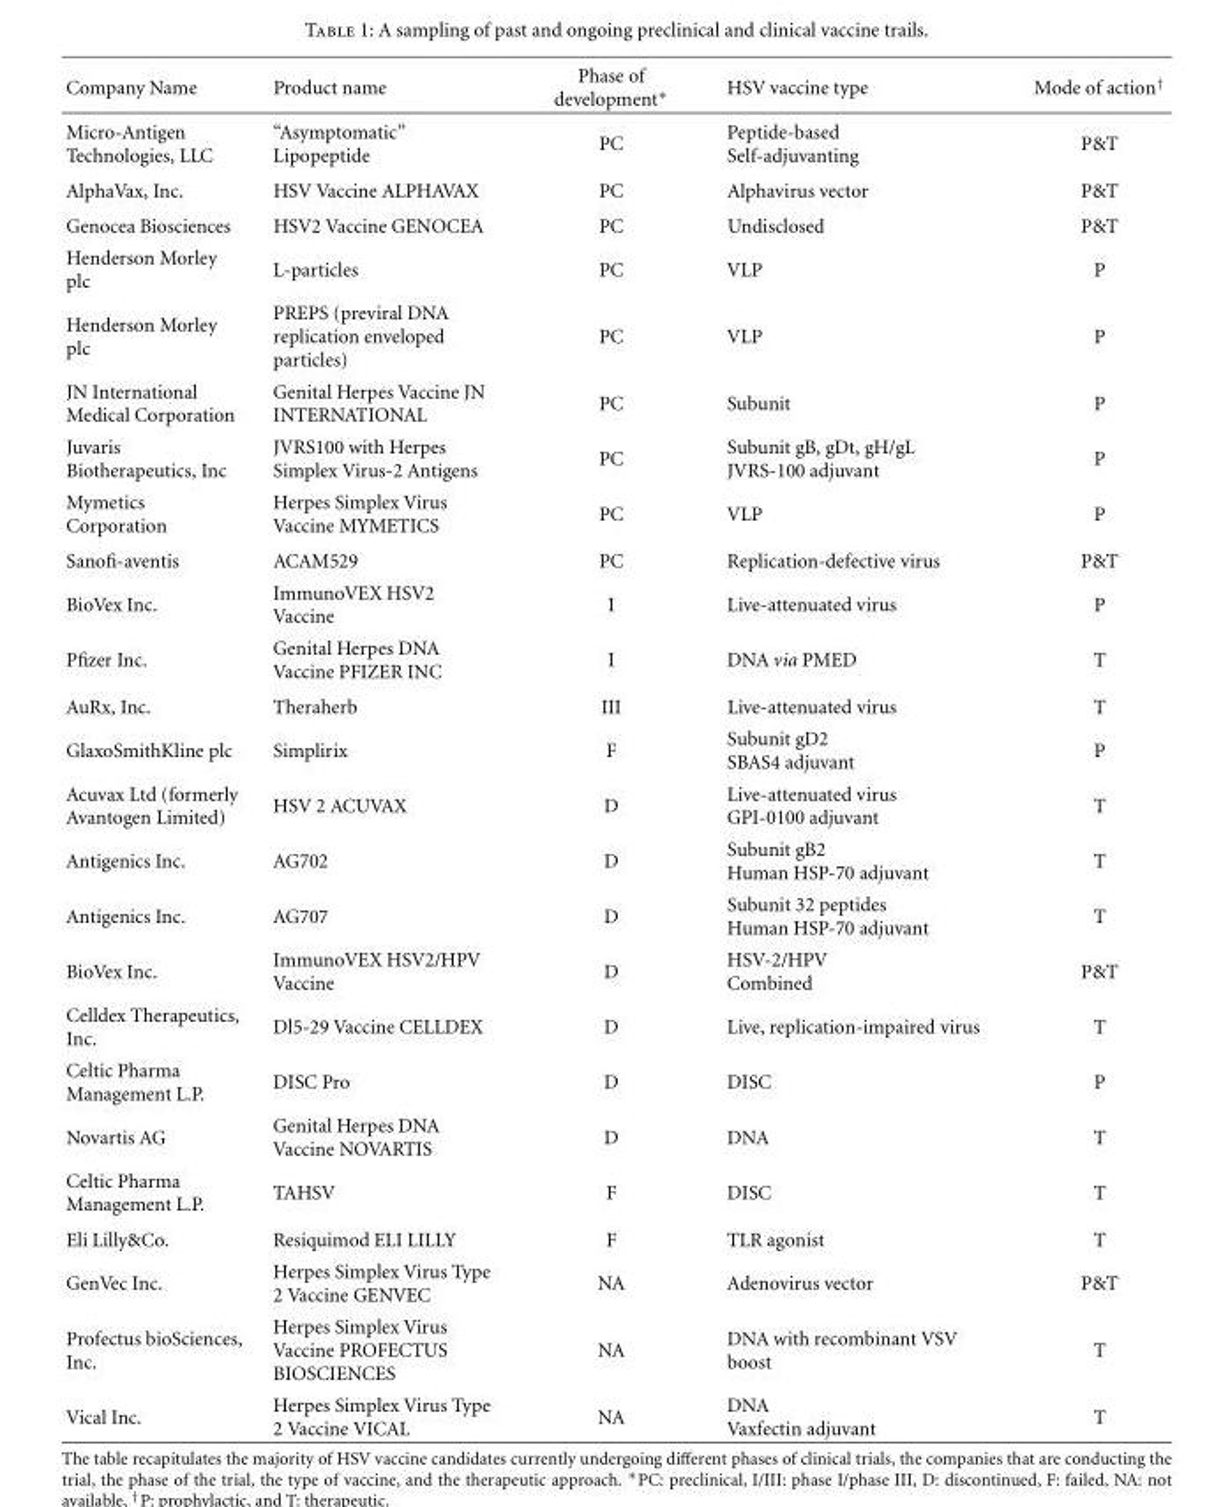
<table><thead><tr><td>Company Name</td><td>Product name</td><td>Phase of development∗</td><td>HSV vaccine type</td><td>Mode of action<sup>†</sup></td></tr></thead><tbody><tr><td>Micro-Antigen Technologies, LLC</td><td>“Asymptomatic” Lipopeptide</td><td>PC</td><td>Peptide-based Self-adjuvanting</td><td>P&amp;T</td></tr><tr><td>AlphaVax, Inc.</td><td>HSV Vaccine ALPHAVAX</td><td>PC</td><td>Alphavirus vector</td><td>P&amp;T</td></tr><tr><td>Genocea Biosciences</td><td>HSV2 Vaccine GENOCEA</td><td>PC</td><td>Undisclosed</td><td>P&amp;T</td></tr><tr><td>Henderson Morley plc</td><td>L-particles</td><td>PC</td><td>VLP</td><td>P</td></tr><tr><td>Henderson Morley plc</td><td>PREPS (previral DNA replication enveloped particles)</td><td>PC</td><td>VLP</td><td>P</td></tr><tr><td>JN International Medical Corporation</td><td>Genital Herpes Vaccine JN INTERNATIONAL</td><td>PC</td><td>Subunit</td><td>P</td></tr><tr><td>Juvaris Biotherapeutics, Inc</td><td>JVRS100 with Herpes Simplex Virus-2 Antigens</td><td>PC</td><td>Subunit gB, gDt, gH/gL JVRS-100 adjuvant</td><td>P</td></tr><tr><td>Mymetics Corporation</td><td>Herpes Simplex Virus Vaccine MYMETICS</td><td>PC</td><td>VLP</td><td>P</td></tr><tr><td>Sanofi-aventis</td><td>ACAM529</td><td>PC</td><td>Replication-defective virus</td><td>P&amp;T</td></tr><tr><td>BioVex Inc.</td><td>ImmunoVEX HSV2 Vaccine</td><td>I</td><td>Live-attenuated virus</td><td>P</td></tr><tr><td>Pfizer Inc.</td><td>Genital Herpes DNA Vaccine PFIZER INC</td><td>I</td><td>DNA via PMED</td><td>T</td></tr><tr><td>AuRx, Inc.</td><td>Theraherb</td><td>III</td><td>Live-attenuated virus</td><td>T</td></tr><tr><td>GlaxoSmithKline plc</td><td>Simplirix</td><td>F</td><td>Subunit gD2 SBAS4 adjuvant</td><td>P</td></tr><tr><td>Acuvax Ltd (formerly Avantogen Limited)</td><td>HSV 2 ACUVAX</td><td>D</td><td>Live-attenuated virus GPI-0100 adjuvant</td><td>T</td></tr><tr><td>Antigenics Inc.</td><td>AG702</td><td>D</td><td>Subunit gB2 Human HSP-70 adjuvant</td><td>T</td></tr><tr><td>Antigenics Inc.</td><td>AG707</td><td>D</td><td>Subunit 32 peptides Human HSP-70 adjuvant</td><td>T</td></tr><tr><td>BioVex Inc.</td><td>ImmunoVEX HSV2/HPV Vaccine</td><td>D</td><td>HSV-2/HPV Combined</td><td>P&amp;T</td></tr><tr><td>Celldex Therapeutics, Inc.</td><td>Dl5-29 Vaccine CELLDEX</td><td>D</td><td>Live, replication-impaired virus</td><td>T</td></tr><tr><td>Celtic Pharma Management L.P.</td><td>DISC Pro</td><td>D</td><td>DISC</td><td>P</td></tr><tr><td>Novartis AG</td><td>Genital Herpes DNA Vaccine NOVARTIS</td><td>D</td><td>DNA</td><td>T</td></tr><tr><td>Celtic Pharma Management L.P.</td><td>TAHSV</td><td>F</td><td>DISC</td><td>T</td></tr><tr><td>Eli Lilly&amp;Co.</td><td>Resiquimod ELI LILLY</td><td>F</td><td>TLR agonist</td><td>T</td></tr><tr><td>GenVec Inc.</td><td>Herpes Simplex Virus Type 2 Vaccine GENVEC</td><td>NA</td><td>Adenovirus vector</td><td>P&amp;T</td></tr><tr><td>Profectus bioSciences, Inc.</td><td>Herpes Simplex Virus Vaccine PROFECTUS BIOSCIENCES</td><td>NA</td><td>DNA with recombinant VSV boost</td><td>T</td></tr><tr><td>Vical Inc.</td><td>Herpes Simplex Virus Type 2 Vaccine VICAL</td><td>NA</td><td>DNA Vaxfectin adjuvant</td><td>T</td></tr></tbody></table>